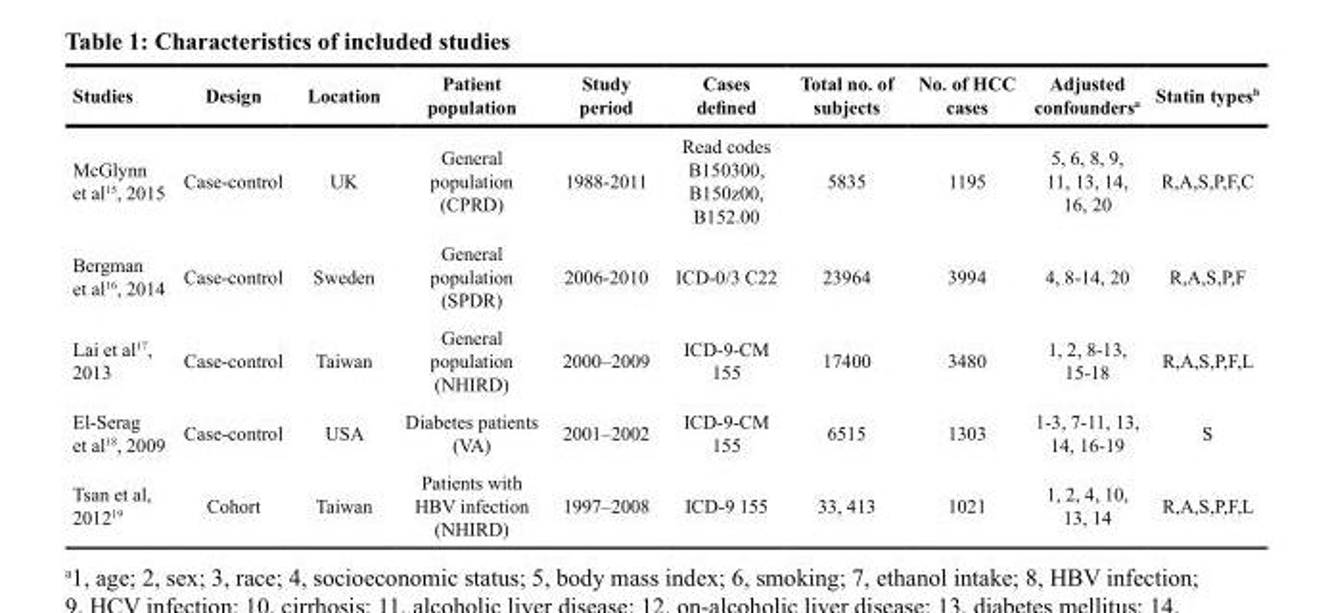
<table><thead><tr><td>Studies</td><td>Design</td><td>Location</td><td>Patient population</td><td>Study period</td><td>Cases defined</td><td>Total no. of subjects</td><td>No. of HCC cases</td><td>Adjusted confounders<sup>a</sup></td><td>Statin types<sup>b</sup></td></tr></thead><tbody><tr><td>McGlynn et al<sup>15</sup>, 2015</td><td>Case-control</td><td>UK</td><td>General population (CPRD)</td><td>1988-2011</td><td>Read codes B150300, B150z00, B152.00</td><td>5835</td><td>1195</td><td>5, 6, 8, 9, 11, 13, 14, 16, 20</td><td>R,A,S,P,F,C</td></tr><tr><td>Bergman et al<sup>16</sup>, 2014</td><td>Case-control</td><td>Sweden</td><td>General population (SPDR)</td><td>2006-2010</td><td>ICD-0/3 C22</td><td>23964</td><td>3994</td><td>4, 8-14, 20</td><td>R,A,S,P,F</td></tr><tr><td>Lai et al<sup>17</sup>, 2013</td><td>Case-control</td><td>Taiwan</td><td>General population (NHIRD)</td><td>2000–2009</td><td>ICD-9-CM 155</td><td>17400</td><td>3480</td><td>1, 2, 8-13, 15-18</td><td>R,A,S,P,F,L</td></tr><tr><td>El-Serag et al<sup>18</sup>, 2009</td><td>Case-control</td><td>USA</td><td>Diabetes patients (VA)</td><td>2001–2002</td><td>ICD-9-CM 155</td><td>6515</td><td>1303</td><td>1-3, 7-11, 13, 14, 16-19</td><td>S</td></tr><tr><td>Tsan et al, 2012<sup>19</sup></td><td>Cohort</td><td>Taiwan</td><td>Patients with HBV infection (NHIRD)</td><td>1997–2008</td><td>ICD-9 155</td><td>33, 413</td><td>1021</td><td>1, 2, 4, 10, 13, 14</td><td>R,A,S,P,F,L</td></tr></tbody></table>